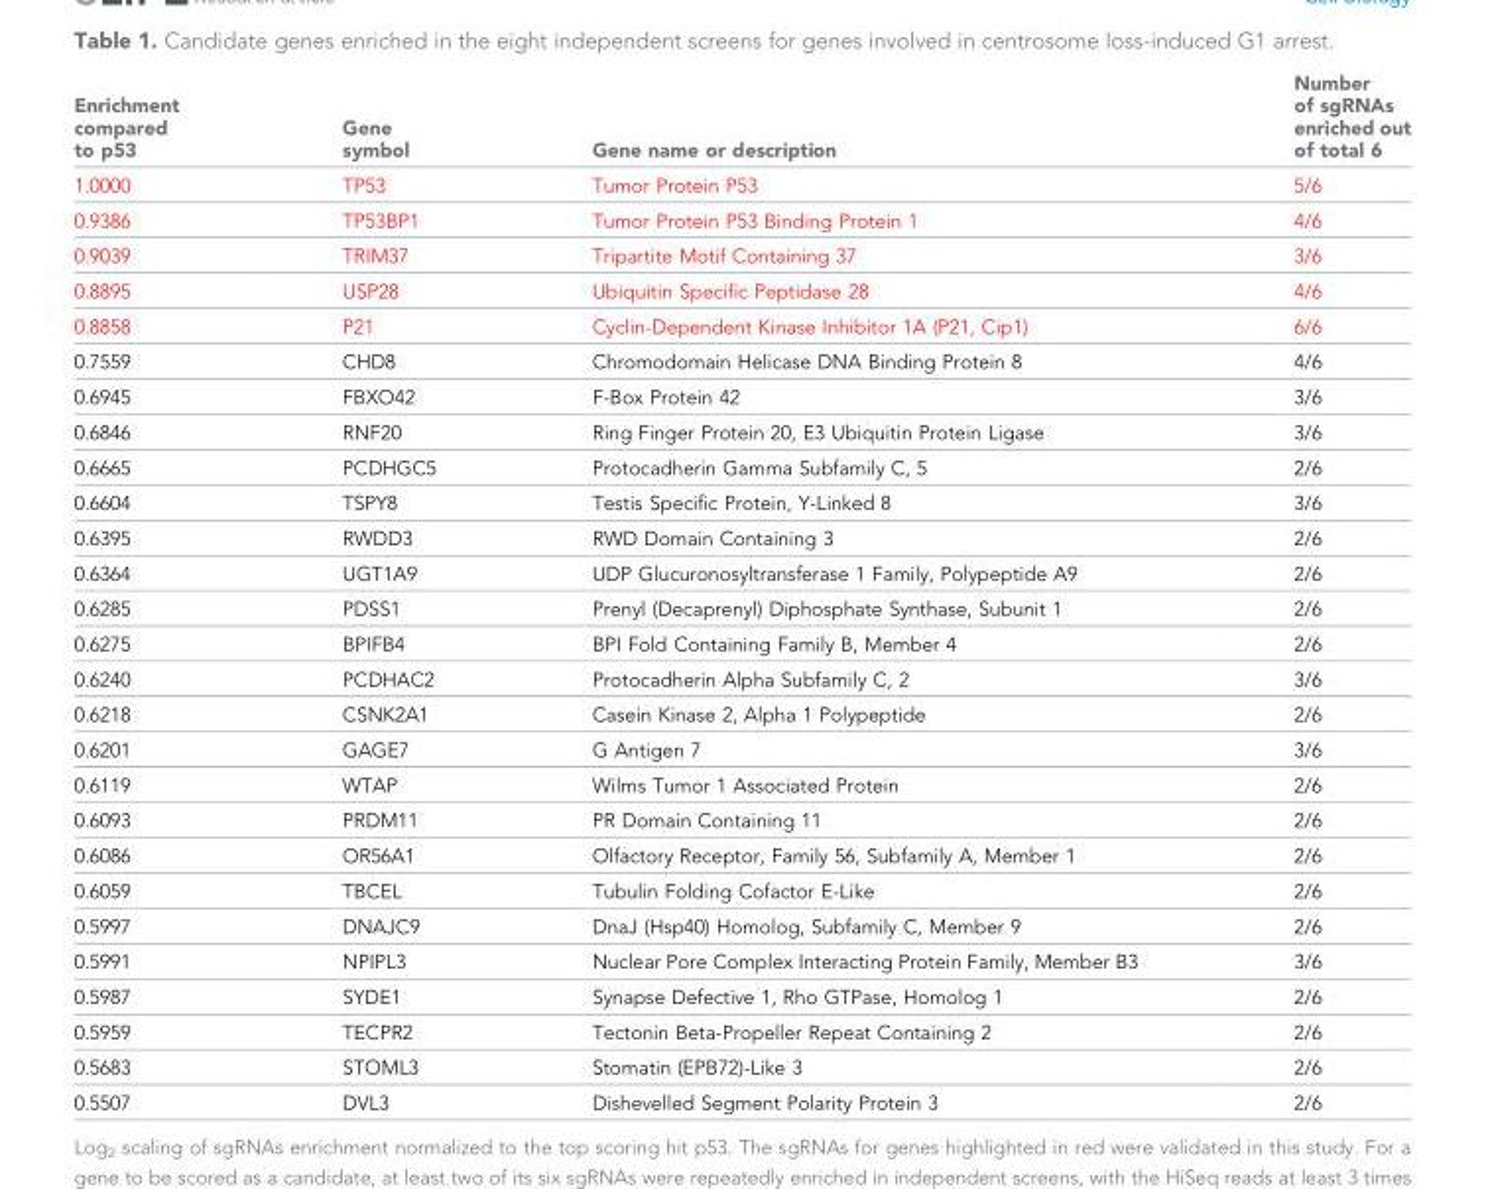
<table><thead><tr><td>Enrichment compared to p53</td><td>Gene symbol</td><td>Gene name or description</td><td>Number of sgRNAs enriched out of total 6</td></tr></thead><tbody><tr><td>1.0000</td><td>TP53</td><td>Tumor Protein P53</td><td>5/6</td></tr><tr><td>0.9386</td><td>TP53BP1</td><td>Tumor Protein P53 Binding Protein 1</td><td>4/6</td></tr><tr><td>0.9039</td><td>TRIM37</td><td>Tripartite Motif Containing 37</td><td>3/6</td></tr><tr><td>0.8895</td><td>USP28</td><td>Ubiquitin Specific Peptidase 28</td><td>4/6</td></tr><tr><td>0.8858</td><td>P21</td><td>Cyclin-Dependent Kinase Inhibitor 1A (P21, Cip1)</td><td>6/6</td></tr><tr><td>0.7559</td><td>CHD8</td><td>Chromodomain Helicase DNA Binding Protein 8</td><td>4/6</td></tr><tr><td>0.6945</td><td>FBXO42</td><td>F-Box Protein 42</td><td>3/6</td></tr><tr><td>0.6846</td><td>RNF20</td><td>Ring Finger Protein 20, E3 Ubiquitin Protein Ligase</td><td>3/6</td></tr><tr><td>0.6665</td><td>PCDHGC5</td><td>Protocadherin Gamma Subfamily C, 5</td><td>2/6</td></tr><tr><td>0.6604</td><td>TSPY8</td><td>Testis Specific Protein, Y-Linked 8</td><td>3/6</td></tr><tr><td>0.6395</td><td>RWDD3</td><td>RWD Domain Containing 3</td><td>2/6</td></tr><tr><td>0.6364</td><td>UGT1A9</td><td>UDP Glucuronosyltransferase 1 Family, Polypeptide A9</td><td>2/6</td></tr><tr><td>0.6285</td><td>PDSS1</td><td>Prenyl (Decaprenyl) Diphosphate Synthase, Subunit 1</td><td>2/6</td></tr><tr><td>0.6275</td><td>BPIFB4</td><td>BPI Fold Containing Family B, Member 4</td><td>2/6</td></tr><tr><td>0.6240</td><td>PCDHAC2</td><td>Protocadherin Alpha Subfamily C, 2</td><td>3/6</td></tr><tr><td>0.6218</td><td>CSNK2A1</td><td>Casein Kinase 2, Alpha 1 Polypeptide</td><td>2/6</td></tr><tr><td>0.6201</td><td>GAGE7</td><td>G Antigen 7</td><td>3/6</td></tr><tr><td>0.6119</td><td>WTAP</td><td>Wilms Tumor 1 Associated Protein</td><td>2/6</td></tr><tr><td>0.6093</td><td>PRDM11</td><td>PR Domain Containing 11</td><td>2/6</td></tr><tr><td>0.6086</td><td>OR56A1</td><td>Olfactory Receptor, Family 56, Subfamily A, Member 1</td><td>2/6</td></tr><tr><td>0.6059</td><td>TBCEL</td><td>Tubulin Folding Cofactor E-Like</td><td>2/6</td></tr><tr><td>0.5997</td><td>DNAJC9</td><td>DnaJ (Hsp40) Homolog, Subfamily C, Member 9</td><td>2/6</td></tr><tr><td>0.5991</td><td>NPIPL3</td><td>Nuclear Pore Complex Interacting Protein Family, Member B3</td><td>3/6</td></tr><tr><td>0.5987</td><td>SYDE1</td><td>Synapse Defective 1, Rho GTPase, Homolog 1</td><td>2/6</td></tr><tr><td>0.5959</td><td>TECPR2</td><td>Tectonin Beta-Propeller Repeat Containing 2</td><td>2/6</td></tr><tr><td>0.5683</td><td>STOML3</td><td>Stomatin (EPB72)-Like 3</td><td>2/6</td></tr><tr><td>0.5507</td><td>DVL3</td><td>Dishevelled Segment Polarity Protein 3</td><td>2/6</td></tr></tbody></table>